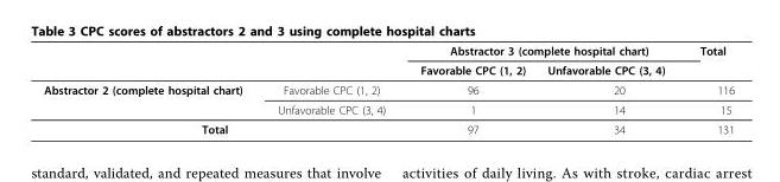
<table><thead><tr><td rowspan="2"></td><td rowspan="2"></td><td colspan="2">Abstractor 3 (complete hospital chart)</td><td rowspan="2">Total</td></tr><tr><td>Favorable CPC (1, 2)</td><td>Unfavorable CPC (3, 4)</td></tr></thead><tbody><tr><td rowspan="2">Abstractor 2 (complete hospital chart)</td><td>Favorable CPC (1, 2)</td><td>96</td><td>20</td><td>116</td></tr><tr><td>Unfavorable CPC (3, 4)</td><td>1</td><td>14</td><td>15</td></tr><tr><td colspan="2">Total</td><td>97</td><td>34</td><td>131</td></tr></tbody></table>